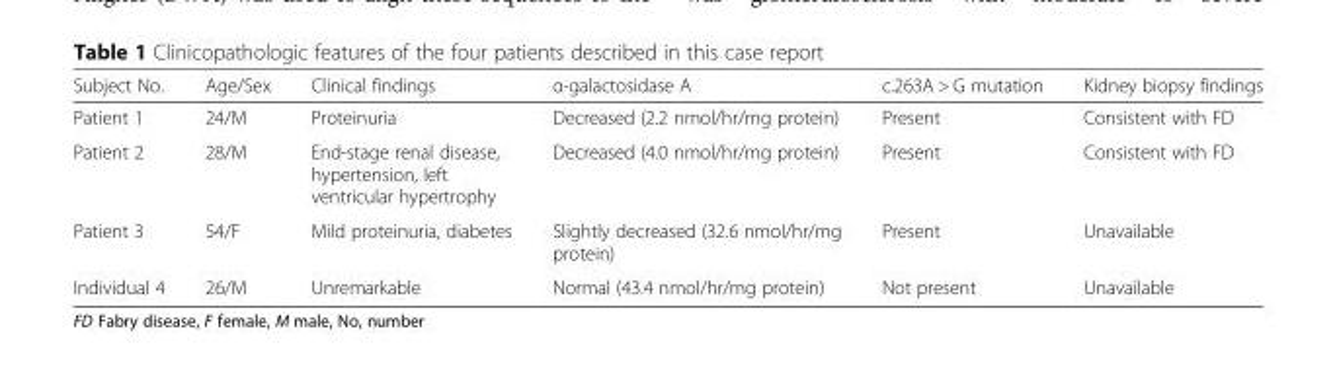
<table><thead><tr><td>Subject No.</td><td>Age/Sex</td><td>Clinical findings</td><td>α-galactosidase A</td><td>c.263A &gt; G mutation</td><td>Kidney biopsy findings</td></tr></thead><tbody><tr><td>Patient 1</td><td>24/M</td><td>Proteinuria</td><td>Decreased (2.2 nmol/hr/mg protein)</td><td>Present</td><td>Consistent with FD</td></tr><tr><td>Patient 2</td><td>28/M</td><td>End-stage renal disease, hypertension, left ventricular hypertrophy</td><td>Decreased (4.0 nmol/hr/mg protein)</td><td>Present</td><td>Consistent with FD</td></tr><tr><td>Patient 3</td><td>54/F</td><td>Mild proteinuria, diabetes</td><td>Slightly decreased (32.6 nmol/hr/mg protein)</td><td>Present</td><td>Unavailable</td></tr><tr><td>Individual 4</td><td>26/M</td><td>Unremarkable</td><td>Normal (43.4 nmol/hr/mg protein)</td><td>Not present</td><td>Unavailable</td></tr></tbody></table>